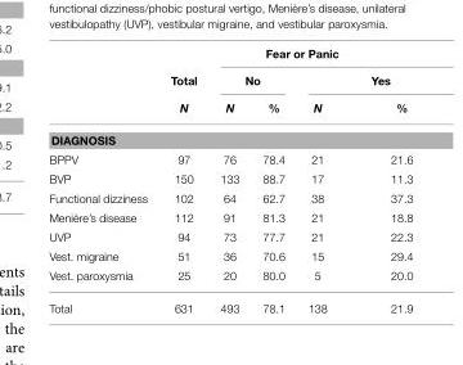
<table><thead><tr><td rowspan="3"></td><td rowspan="3">Total N</td><td colspan="4">Fear or Panic</td></tr><tr><td colspan="2">No</td><td colspan="2">Yes</td></tr><tr><td>N</td><td>%</td><td>N</td><td>%</td></tr></thead><tbody><tr><td colspan="6">DIAGNOSIS</td></tr><tr><td>BPPV</td><td>97</td><td>76</td><td>78.4</td><td>21</td><td>21.6</td></tr><tr><td>BVP</td><td>150</td><td>133</td><td>88.7</td><td>17</td><td>11.3</td></tr><tr><td>Functional dizziness</td><td>102</td><td>64</td><td>62.7</td><td>38</td><td>37.3</td></tr><tr><td>Menière’s disease</td><td>112</td><td>91</td><td>81.3</td><td>21</td><td>18.8</td></tr><tr><td>UVP</td><td>94</td><td>73</td><td>77.7</td><td>21</td><td>22.3</td></tr><tr><td>Vest. migraine</td><td>51</td><td>36</td><td>70.6</td><td>15</td><td>29.4</td></tr><tr><td>Vest. paroxysmia</td><td>25</td><td>20</td><td>80.0</td><td>5</td><td>20.0</td></tr><tr><td>Total</td><td>631</td><td>493</td><td>78.1</td><td>138</td><td>21.9</td></tr></tbody></table>